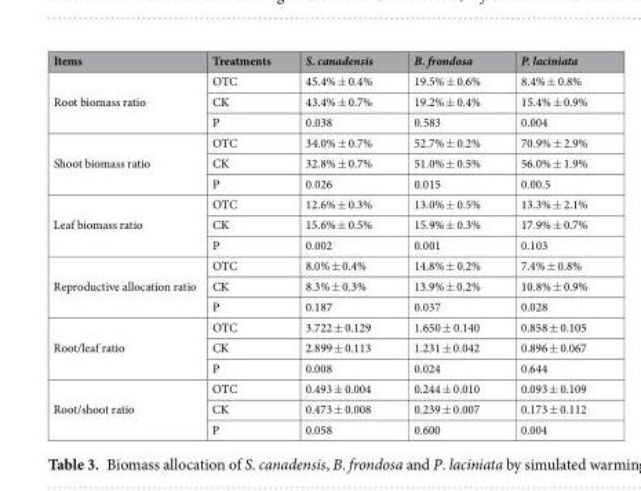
<table><thead><tr><td>Items</td><td>Treatments</td><td>S. canadensis</td><td>B. frondosa</td><td>P. laciniata</td></tr></thead><tbody><tr><td rowspan="3">Root biomass ratio</td><td>OTC</td><td>45.4% ± 0.4%</td><td>19.5% ± 0.6%</td><td>8.4% ± 0.8%</td></tr><tr><td>CK</td><td>43.4% ± 0.7%</td><td>19.2% ± 0.4%</td><td>15.4% ± 0.9%</td></tr><tr><td>P</td><td>0.038</td><td>0.583</td><td>0.004</td></tr><tr><td rowspan="3">Shoot biomass ratio</td><td>OTC</td><td>34.0% ± 0.7%</td><td>52.7% ± 0.2%</td><td>70.9% ± 2.9%</td></tr><tr><td>CK</td><td>32.8% ± 0.7%</td><td>51.0% ± 0.5%</td><td>56.0% ± 1.9%</td></tr><tr><td>P</td><td>0.026</td><td>0.015</td><td>0.00.5</td></tr><tr><td rowspan="3">Leaf biomass ratio</td><td>OTC</td><td>12.6% ± 0.3%</td><td>13.0% ± 0.5%</td><td>13.3% ± 2.1%</td></tr><tr><td>CK</td><td>15.6% ± 0.5%</td><td>15.9% ± 0.3%</td><td>17.9% ± 0.7%</td></tr><tr><td>P</td><td>0.002</td><td>0.001</td><td>0.103</td></tr><tr><td rowspan="3">Reproductive allocation ratio</td><td>OTC</td><td>8.0% ± 0.4%</td><td>14.8% ± 0.2%</td><td>7.4% ± 0.8%</td></tr><tr><td>CK</td><td>8.3% ± 0.3%</td><td>13.9% ± 0.2%</td><td>10.8% ± 0.9%</td></tr><tr><td>P</td><td>0.187</td><td>0.037</td><td>0.028</td></tr><tr><td rowspan="3">Root/leaf ratio</td><td>OTC</td><td>3.722 ± 0.129</td><td>1.650 ± 0.140</td><td>0.858 ± 0.105</td></tr><tr><td>CK</td><td>2.899 ± 0.113</td><td>1.231 ± 0.042</td><td>0.896 ± 0.067</td></tr><tr><td>P</td><td>0.008</td><td>0.024</td><td>0.644</td></tr><tr><td rowspan="3">Root/shoot ratio</td><td>OTC</td><td>0.493 ± 0.004</td><td>0.244 ± 0.010</td><td>0.093 ± 0.109</td></tr><tr><td>CK</td><td>0.473 ± 0.008</td><td>0.239 ± 0.007</td><td>0.173 ± 0.112</td></tr><tr><td>P</td><td>0.058</td><td>0.600</td><td>0.004</td></tr></tbody></table>